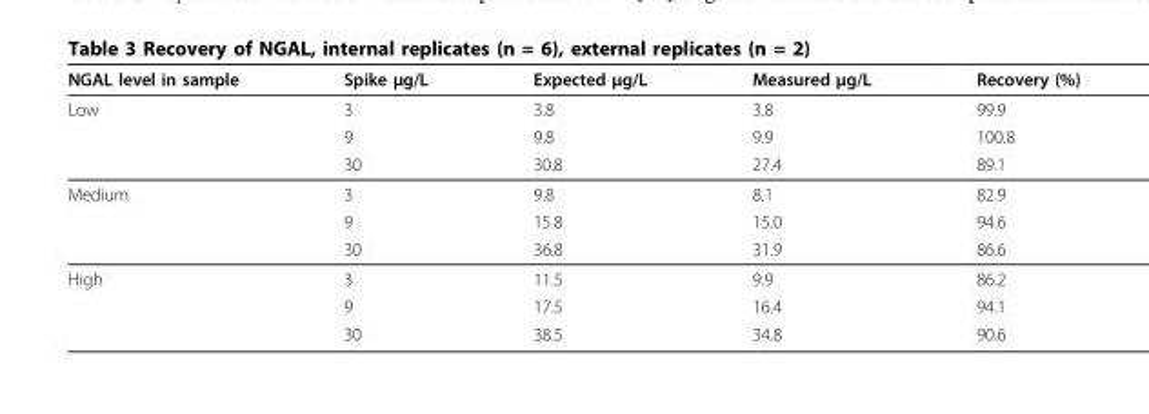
<table><thead><tr><td>NGAL level in sample</td><td>Spike μg/L</td><td>Expected μg/L</td><td>Measured μg/L</td><td>Recovery (%)</td></tr></thead><tbody><tr><td rowspan="3">Low</td><td>3</td><td>3.8</td><td>3.8</td><td>99.9</td></tr><tr><td>9</td><td>9.8</td><td>9.9</td><td>100.8</td></tr><tr><td>30</td><td>30.8</td><td>27.4</td><td>89.1</td></tr><tr><td rowspan="3">Medium</td><td>3</td><td>9.8</td><td>8.1</td><td>82.9</td></tr><tr><td>9</td><td>15.8</td><td>15.0</td><td>94.6</td></tr><tr><td>30</td><td>36.8</td><td>31.9</td><td>86.6</td></tr><tr><td rowspan="3">High</td><td>3</td><td>11.5</td><td>9.9</td><td>86.2</td></tr><tr><td>9</td><td>17.5</td><td>16.4</td><td>94.1</td></tr><tr><td>30</td><td>38.5</td><td>34.8</td><td>90.6</td></tr></tbody></table>